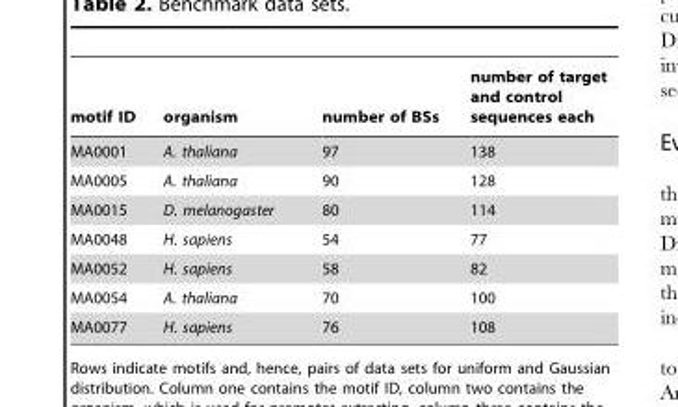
<table><thead><tr><td>motif ID</td><td>organism</td><td>number of BSs</td><td>number of target and control sequences each</td></tr></thead><tbody><tr><td>MA0001</td><td>A. thaliana</td><td>97</td><td>138</td></tr><tr><td>MA0005</td><td>A. thaliana</td><td>90</td><td>128</td></tr><tr><td>MA0015</td><td>D. melanogaster</td><td>80</td><td>114</td></tr><tr><td>MA0048</td><td>H. sapiens</td><td>54</td><td>77</td></tr><tr><td>MA0052</td><td>H. sapiens</td><td>58</td><td>82</td></tr><tr><td>MA0054</td><td>A. thaliana</td><td>70</td><td>100</td></tr><tr><td>MA0077</td><td>H. sapiens</td><td>76</td><td>108</td></tr></tbody></table>